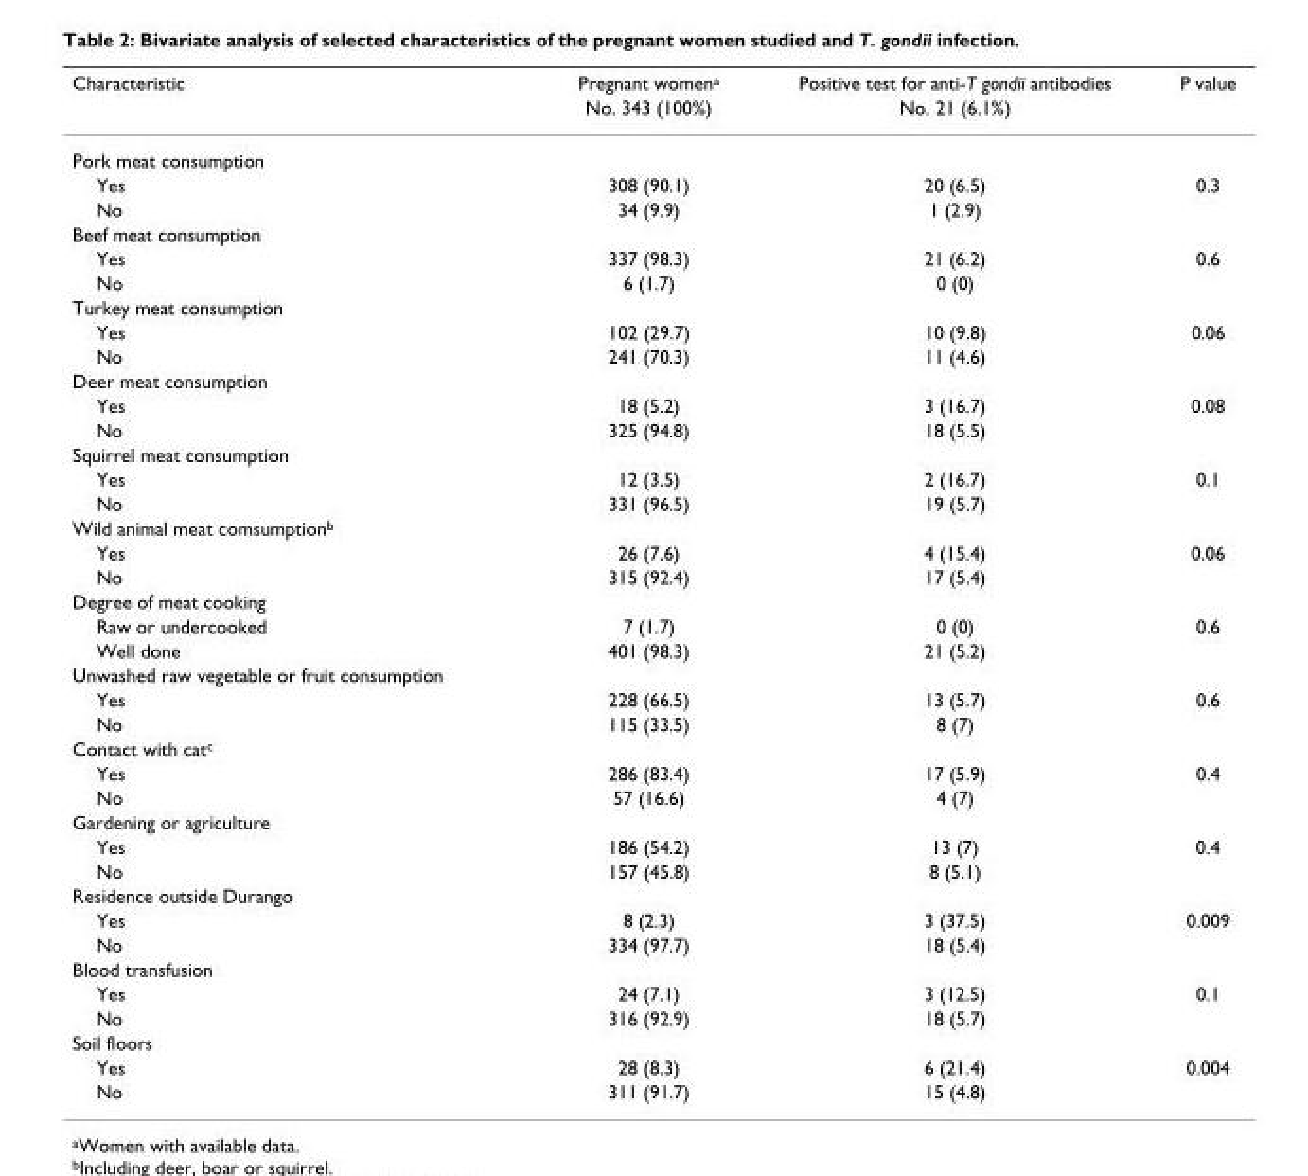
<table><thead><tr><td rowspan="2">Characteristic</td><td rowspan="2">Pregnant women<sup>a</sup> No. 343 (100%)</td><td rowspan="2">Positive test for anti-T gondii antibodies No. 21 (6.1%)</td><td rowspan="2">P value</td></tr><tr></tr></thead><tbody><tr><td colspan="4">Pork meat consumption</td></tr><tr><td>Yes</td><td>308 (90.1)</td><td>20 (6.5)</td><td>0.3</td></tr><tr><td>No</td><td>34 (9.9)</td><td>1 (2.9)</td><td></td></tr><tr><td colspan="4">Beef meat consumption</td></tr><tr><td>Yes</td><td>337 (98.3)</td><td>21 (6.2)</td><td>0.6</td></tr><tr><td>No</td><td>6 (1.7)</td><td>0 (0)</td><td></td></tr><tr><td colspan="4">Turkey meat consumption</td></tr><tr><td>Yes</td><td>102 (29.7)</td><td>10 (9.8)</td><td>0.06</td></tr><tr><td>No</td><td>241 (70.3)</td><td>11 (4.6)</td><td></td></tr><tr><td colspan="4">Deer meat consumption</td></tr><tr><td>Yes</td><td>18 (5.2)</td><td>3 (16.7)</td><td>0.08</td></tr><tr><td>No</td><td>325 (94.8)</td><td>18 (5.5)</td><td></td></tr><tr><td colspan="4">Squirrel meat consumption</td></tr><tr><td>Yes</td><td>12 (3.5)</td><td>2 (16.7)</td><td>0.1</td></tr><tr><td>No</td><td>331 (96.5)</td><td>19 (5.7)</td><td></td></tr><tr><td colspan="4">Wild animal meat comsumption<sup>b</sup></td></tr><tr><td>Yes</td><td>26 (7.6)</td><td>4 (15.4)</td><td>0.06</td></tr><tr><td>No</td><td>315 (92.4)</td><td>17 (5.4)</td><td></td></tr><tr><td colspan="4">Degree of meat cooking</td></tr><tr><td>Raw or undercooked</td><td>7 (1.7)</td><td>0 (0)</td><td>0.6</td></tr><tr><td>Well done</td><td>401 (98.3)</td><td>21 (5.2)</td><td></td></tr><tr><td colspan="4">Unwashed raw vegetable or fruit consumption</td></tr><tr><td>Yes</td><td>228 (66.5)</td><td>13 (5.7)</td><td>0.6</td></tr><tr><td>No</td><td>115 (33.5)</td><td>8 (7)</td><td></td></tr><tr><td colspan="4">Contact with cat<sup>c</sup></td></tr><tr><td>Yes</td><td>286 (83.4)</td><td>17 (5.9)</td><td>0.4</td></tr><tr><td>No</td><td>57 (16.6)</td><td>4 (7)</td><td></td></tr><tr><td colspan="4">Gardening or agriculture</td></tr><tr><td>Yes</td><td>186 (54.2)</td><td>13 (7)</td><td>0.4</td></tr><tr><td>No</td><td>157 (45.8)</td><td>8 (5.1)</td><td></td></tr><tr><td colspan="4">Residence outside Durango</td></tr><tr><td>Yes</td><td>8 (2.3)</td><td>3 (37.5)</td><td>0.009</td></tr><tr><td>No</td><td>334 (97.7)</td><td>18 (5.4)</td><td></td></tr><tr><td colspan="4">Blood transfusion</td></tr><tr><td>Yes</td><td>24 (7.1)</td><td>3 (12.5)</td><td>0.1</td></tr><tr><td>No</td><td>316 (92.9)</td><td>18 (5.7)</td><td></td></tr><tr><td colspan="4">Soil floors</td></tr><tr><td>Yes</td><td>28 (8.3)</td><td>6 (21.4)</td><td>0.004</td></tr><tr><td>No</td><td>311 (91.7)</td><td>15 (4.8)</td><td></td></tr></tbody></table>